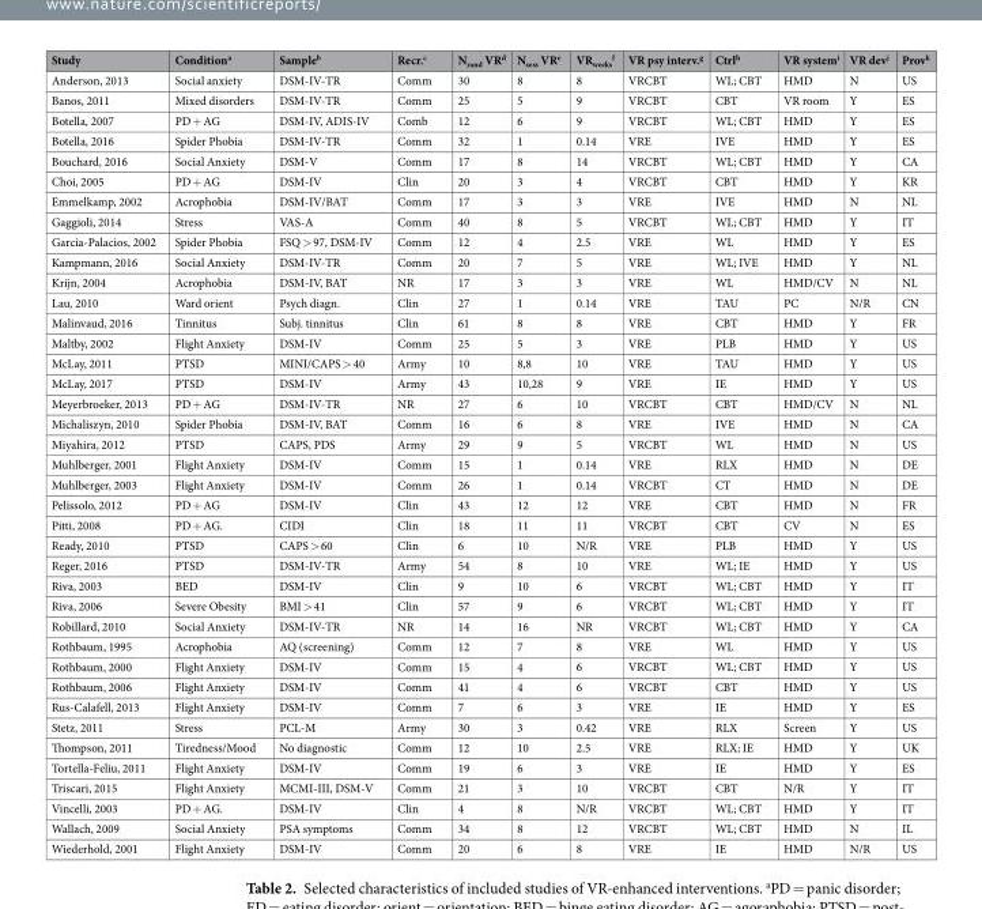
<table><thead><tr><td>Study</td><td>Condition<sup>a</sup></td><td>Sample<sup>b</sup></td><td>Recr.<sup>c</sup></td><td>N<sub>rand</sub> VR<sup>d</sup></td><td>N<sub>sess</sub> VR<sup>e</sup></td><td>VR<sub>weeks</sub> <sup>f</sup></td><td>VR psy interv.<sup>g</sup></td><td>Ctrl<sup>h</sup></td><td>VR system<sup>i</sup></td><td>VR dev<sup>j</sup></td><td>Prov<sup>k</sup></td></tr></thead><tbody><tr><td>Anderson, 2013</td><td>Social anxiety</td><td>DSM-IV-TR</td><td>Comm</td><td>30</td><td>8</td><td>8</td><td>VRCBT</td><td>WL; CBT</td><td>HMD</td><td>N</td><td>US</td></tr><tr><td>Banos, 2011</td><td>Mixed disorders</td><td>DSM-IV-TR</td><td>Comm</td><td>25</td><td>5</td><td>9</td><td>VRCBT</td><td>CBT</td><td>VR room</td><td>Y</td><td>ES</td></tr><tr><td>Botella, 2007</td><td>PD + AG</td><td>DSM-IV, ADIS-IV</td><td>Comb</td><td>12</td><td>6</td><td>9</td><td>VRCBT</td><td>WL; CBT</td><td>HMD</td><td>Y</td><td>ES</td></tr><tr><td>Botella, 2016</td><td>Spider Phobia</td><td>DSM-IV-TR</td><td>Comm</td><td>32</td><td>1</td><td>0.14</td><td>VRE</td><td>IVE</td><td>HMD</td><td>Y</td><td>ES</td></tr><tr><td>Bouchard, 2016</td><td>Social Anxiety</td><td>DSM-V</td><td>Comm</td><td>17</td><td>8</td><td>14</td><td>VRCBT</td><td>WL; CBT</td><td>HMD</td><td>Y</td><td>CA</td></tr><tr><td>Choi, 2005</td><td>PD + AG</td><td>DSM-IV</td><td>Clin</td><td>20</td><td>3</td><td>4</td><td>VRCBT</td><td>CBT</td><td>HMD</td><td>Y</td><td>KR</td></tr><tr><td>Emmelkamp, 2002</td><td>Acrophobia</td><td>DSM-IV/BAT</td><td>Comm</td><td>17</td><td>3</td><td>3</td><td>VRE</td><td>IVE</td><td>HMD</td><td>N</td><td>NL</td></tr><tr><td>Gaggioli, 2014</td><td>Stress</td><td>VAS-A</td><td>Comm</td><td>40</td><td>8</td><td>5</td><td>VRCBT</td><td>WL; CBT</td><td>HMD</td><td>Y</td><td>IT</td></tr><tr><td>Garcia-Palacios, 2002</td><td>Spider Phobia</td><td>FSQ &gt; 97, DSM-IV</td><td>Comm</td><td>12</td><td>4</td><td>2.5</td><td>VRE</td><td>WL</td><td>HMD</td><td>Y</td><td>ES</td></tr><tr><td>Kampmann, 2016</td><td>Social Anxiety</td><td>DSM-IV-TR</td><td>Comm</td><td>20</td><td>7</td><td>5</td><td>VRE</td><td>WL; IVE</td><td>HMD</td><td>Y</td><td>NL</td></tr><tr><td>Krijn, 2004</td><td>Acrophobia</td><td>DSM-IV, BAT</td><td>NR</td><td>17</td><td>3</td><td>3</td><td>VRE</td><td>WL</td><td>HMD/CV</td><td>N</td><td>NL</td></tr><tr><td>Lau, 2010</td><td>Ward orient</td><td>Psych diagn.</td><td>Clin</td><td>27</td><td>1</td><td>0.14</td><td>VRE</td><td>TAU</td><td>PC</td><td>N/R</td><td>CN</td></tr><tr><td>Malinvaud, 2016</td><td>Tinnitus</td><td>Subj. tinnitus</td><td>Clin</td><td>61</td><td>8</td><td>8</td><td>VRE</td><td>CBT</td><td>HMD</td><td>Y</td><td>FR</td></tr><tr><td>Maltby, 2002</td><td>Flight Anxiety</td><td>DSM-IV</td><td>Comm</td><td>25</td><td>5</td><td>3</td><td>VRE</td><td>PLB</td><td>HMD</td><td>Y</td><td>US</td></tr><tr><td>McLay, 2011</td><td>PTSD</td><td>MINI/CAPS &gt; 40</td><td>Army</td><td>10</td><td>8,8</td><td>10</td><td>VRE</td><td>TAU</td><td>HMD</td><td>Y</td><td>US</td></tr><tr><td>McLay, 2017</td><td>PTSD</td><td>DSM-IV</td><td>Army</td><td>43</td><td>10,28</td><td>9</td><td>VRE</td><td>IE</td><td>HMD</td><td>Y</td><td>US</td></tr><tr><td>Meyerbroeker, 2013</td><td>PD + AG</td><td>DSM-IV-TR</td><td>NR</td><td>27</td><td>6</td><td>10</td><td>VRCBT</td><td>CBT</td><td>HMD/CV</td><td>N</td><td>NL</td></tr><tr><td>Michaliszyn, 2010</td><td>Spider Phobia</td><td>DSM-IV, BAT</td><td>Comm</td><td>16</td><td>6</td><td>8</td><td>VRE</td><td>IVE</td><td>HMD</td><td>N</td><td>CA</td></tr><tr><td>Miyahira, 2012</td><td>PTSD</td><td>CAPS, PDS</td><td>Army</td><td>29</td><td>9</td><td>5</td><td>VRCBT</td><td>WL</td><td>HMD</td><td>N</td><td>US</td></tr><tr><td>Muhlberger, 2001</td><td>Flight Anxiety</td><td>DSM-IV</td><td>Comm</td><td>15</td><td>1</td><td>0.14</td><td>VRE</td><td>RLX</td><td>HMD</td><td>N</td><td>DE</td></tr><tr><td>Muhlberger, 2003</td><td>Flight Anxiety</td><td>DSM-IV</td><td>Comm</td><td>26</td><td>1</td><td>0.14</td><td>VRCBT</td><td>CT</td><td>HMD</td><td>N</td><td>DE</td></tr><tr><td>Pelissolo, 2012</td><td>PD + AG</td><td>DSM-IV</td><td>Clin</td><td>43</td><td>12</td><td>12</td><td>VRE</td><td>CBT</td><td>HMD</td><td>N</td><td>FR</td></tr><tr><td>Pitti, 2008</td><td>PD + AG.</td><td>CIDI</td><td>Clin</td><td>18</td><td>11</td><td>11</td><td>VRCBT</td><td>CBT</td><td>CV</td><td>N</td><td>ES</td></tr><tr><td>Ready, 2010</td><td>PTSD</td><td>CAPS &gt; 60</td><td>Clin</td><td>6</td><td>10</td><td>N/R</td><td>VRE</td><td>PLB</td><td>HMD</td><td>Y</td><td>US</td></tr><tr><td>Reger, 2016</td><td>PTSD</td><td>DSM-IV-TR</td><td>Army</td><td>54</td><td>8</td><td>10</td><td>VRE</td><td>WL; IE</td><td>HMD</td><td>Y</td><td>US</td></tr><tr><td>Riva, 2003</td><td>BED</td><td>DSM-IV</td><td>Clin</td><td>9</td><td>10</td><td>6</td><td>VRCBT</td><td>WL; CBT</td><td>HMD</td><td>Y</td><td>IT</td></tr><tr><td>Riva, 2006</td><td>Severe Obesity</td><td>BMI &gt; 41</td><td>Clin</td><td>57</td><td>9</td><td>6</td><td>VRCBT</td><td>WL; CBT</td><td>HMD</td><td>Y</td><td>IT</td></tr><tr><td>Robillard, 2010</td><td>Social Anxiety</td><td>DSM-IV-TR</td><td>NR</td><td>14</td><td>16</td><td>NR</td><td>VRCBT</td><td>WL; CBT</td><td>HMD</td><td>Y</td><td>CA</td></tr><tr><td>Rothbaum, 1995</td><td>Acrophobia</td><td>AQ (screening)</td><td>Comm</td><td>12</td><td>7</td><td>8</td><td>VRE</td><td>WL</td><td>HMD</td><td>Y</td><td>US</td></tr><tr><td>Rothbaum, 2000</td><td>Flight Anxiety</td><td>DSM-IV</td><td>Comm</td><td>15</td><td>4</td><td>6</td><td>VRCBT</td><td>WL; CBT</td><td>HMD</td><td>Y</td><td>US</td></tr><tr><td>Rothbaum, 2006</td><td>Flight Anxiety</td><td>DSM-IV</td><td>Comm</td><td>41</td><td>4</td><td>6</td><td>VRCBT</td><td>CBT</td><td>HMD</td><td>Y</td><td>US</td></tr><tr><td>Rus-Calafell, 2013</td><td>Flight Anxiety</td><td>DSM-IV</td><td>Comm</td><td>7</td><td>6</td><td>3</td><td>VRE</td><td>IE</td><td>HMD</td><td>Y</td><td>ES</td></tr><tr><td>Stetz, 2011</td><td>Stress</td><td>PCL-M</td><td>Army</td><td>30</td><td>3</td><td>0.42</td><td>VRE</td><td>RLX</td><td>Screen</td><td>Y</td><td>US</td></tr><tr><td>Thompson, 2011</td><td>Tiredness/Mood</td><td>No diagnostic</td><td>Comm</td><td>12</td><td>10</td><td>2.5</td><td>VRE</td><td>RLX; IE</td><td>HMD</td><td>Y</td><td>UK</td></tr><tr><td>Tortella-Feliu, 2011</td><td>Flight Anxiety</td><td>DSM-IV</td><td>Comm</td><td>19</td><td>6</td><td>3</td><td>VRE</td><td>IE</td><td>HMD</td><td>Y</td><td>ES</td></tr><tr><td>Triscari, 2015</td><td>Flight Anxiety</td><td>MCMI-III, DSM-V</td><td>Comm</td><td>21</td><td>3</td><td>10</td><td>VRCBT</td><td>CBT</td><td>N/R</td><td>Y</td><td>IT</td></tr><tr><td>Vincelli, 2003</td><td>PD + AG.</td><td>DSM-IV</td><td>Clin</td><td>4</td><td>8</td><td>N/R</td><td>VRCBT</td><td>WL; CBT</td><td>HMD</td><td>Y</td><td>IT</td></tr><tr><td>Wallach, 2009</td><td>Social Anxiety</td><td>PSA symptoms</td><td>Comm</td><td>34</td><td>8</td><td>12</td><td>VRCBT</td><td>WL; CBT</td><td>HMD</td><td>N</td><td>IL</td></tr><tr><td>Wiederhold, 2001</td><td>Flight Anxiety</td><td>DSM-IV</td><td>Comm</td><td>20</td><td>6</td><td>8</td><td>VRE</td><td>IE</td><td>HMD</td><td>N/R</td><td>US</td></tr></tbody></table>